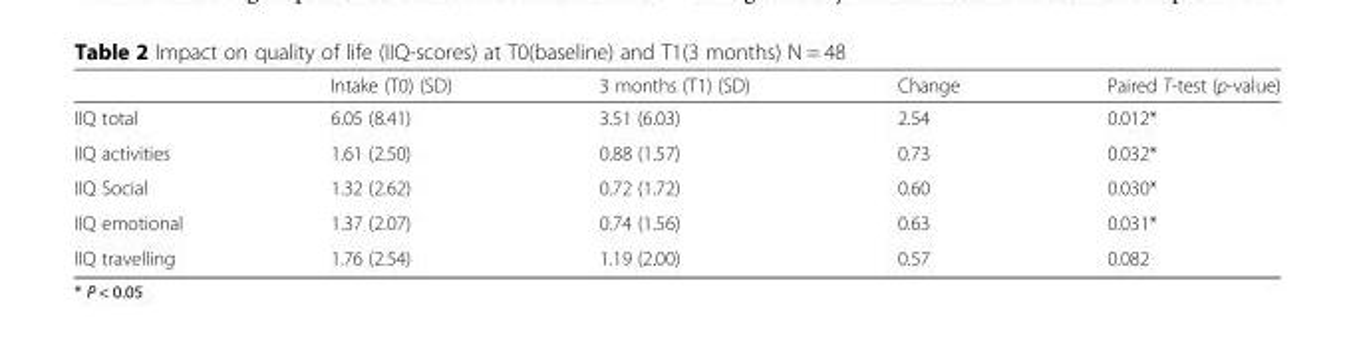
<table><thead><tr><td></td><td>Intake (T0) (SD)</td><td>3 months (T1) (SD)</td><td>Change</td><td>Paired T-test (p-value)</td></tr></thead><tbody><tr><td>IIQ total</td><td>6.05 (8.41)</td><td>3.51 (6.03)</td><td>2.54</td><td>0.012*</td></tr><tr><td>IIQ activities</td><td>1.61 (2.50)</td><td>0.88 (1.57)</td><td>0.73</td><td>0.032*</td></tr><tr><td>IIQ Social</td><td>1.32 (2.62)</td><td>0.72 (1.72)</td><td>0.60</td><td>0.030*</td></tr><tr><td>IIQ emotional</td><td>1.37 (2.07)</td><td>0.74 (1.56)</td><td>0.63</td><td>0.031*</td></tr><tr><td>IIQ travelling</td><td>1.76 (2.54)</td><td>1.19 (2.00)</td><td>0.57</td><td>0.082</td></tr></tbody></table>